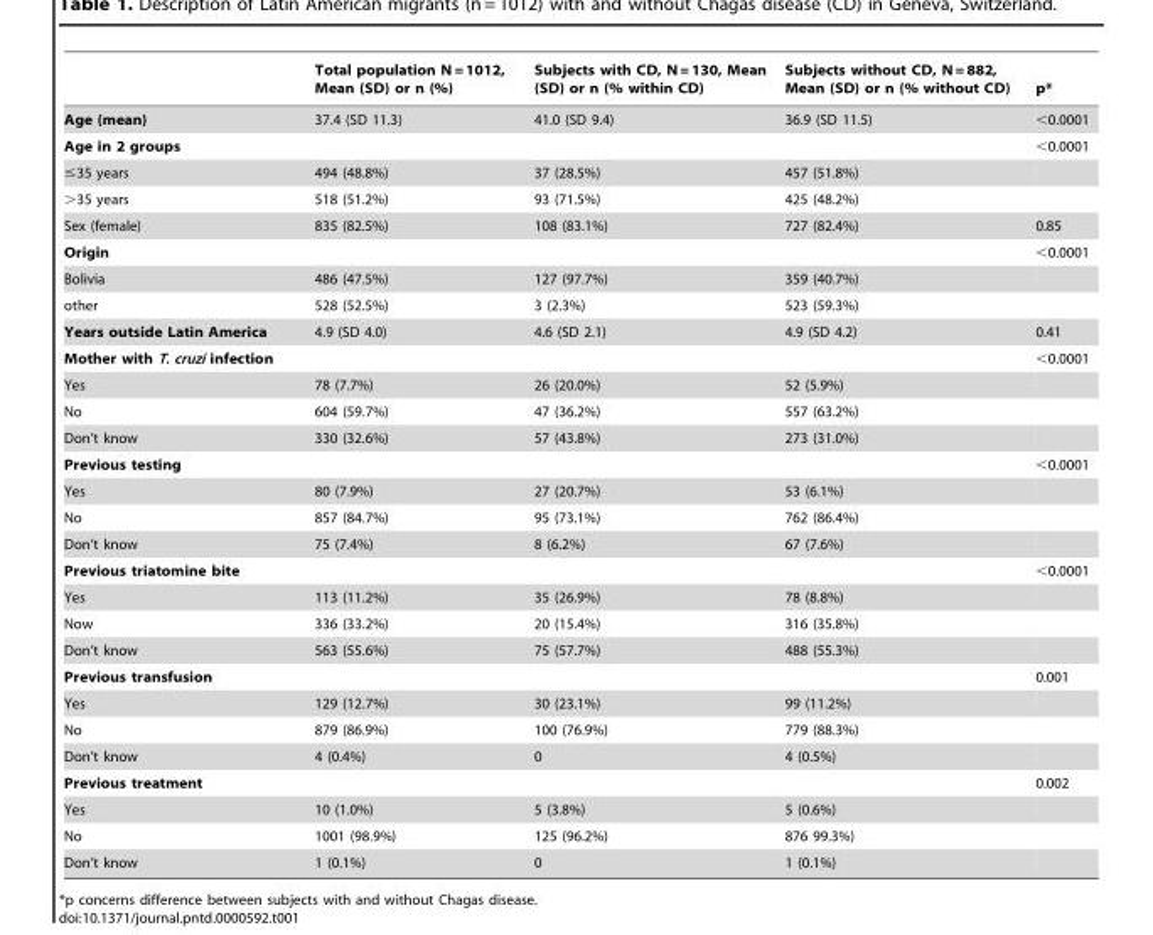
<table><thead><tr><td></td><td>Total population N = 1012, Mean (SD) or n (%)</td><td>Subjects with CD, N = 130, Mean (SD) or n (% within CD)</td><td>Subjects without CD, N = 882, Mean (SD) or n (% without CD)</td><td>p*</td></tr></thead><tbody><tr><td>Age (mean)</td><td>37.4 (SD 11.3)</td><td>41.0 (SD 9.4)</td><td>36.9 (SD 11.5)</td><td>&lt;0.0001</td></tr><tr><td>Age in 2 groups</td><td></td><td></td><td></td><td>&lt;0.0001</td></tr><tr><td>≤35 years</td><td>494 (48.8%)</td><td>37 (28.5%)</td><td>457 (51.8%)</td><td></td></tr><tr><td>&gt;35 years</td><td>518 (51.2%)</td><td>93 (71.5%)</td><td>425 (48.2%)</td><td></td></tr><tr><td>Sex (female)</td><td>835 (82.5%)</td><td>108 (83.1%)</td><td>727 (82.4%)</td><td>0.85</td></tr><tr><td>Origin</td><td></td><td></td><td></td><td>&lt;0.0001</td></tr><tr><td>Bolivia</td><td>486 (47.5%)</td><td>127 (97.7%)</td><td>359 (40.7%)</td><td></td></tr><tr><td>other</td><td>528 (52.5%)</td><td>3 (2.3%)</td><td>523 (59.3%)</td><td></td></tr><tr><td>Years outside Latin America</td><td>4.9 (SD 4.0)</td><td>4.6 (SD 2.1)</td><td>4.9 (SD 4.2)</td><td>0.41</td></tr><tr><td>Mother with T. cruzi infection</td><td></td><td></td><td></td><td>&lt;0.0001</td></tr><tr><td>Yes</td><td>78 (7.7%)</td><td>26 (20.0%)</td><td>52 (5.9%)</td><td></td></tr><tr><td>No</td><td>604 (59.7%)</td><td>47 (36.2%)</td><td>557 (63.2%)</td><td></td></tr><tr><td>Don’t know</td><td>330 (32.6%)</td><td>57 (43.8%)</td><td>273 (31.0%)</td><td></td></tr><tr><td>Previous testing</td><td></td><td></td><td></td><td>&lt;0.0001</td></tr><tr><td>Yes</td><td>80 (7.9%)</td><td>27 (20.7%)</td><td>53 (6.1%)</td><td></td></tr><tr><td>No</td><td>857 (84.7%)</td><td>95 (73.1%)</td><td>762 (86.4%)</td><td></td></tr><tr><td>Don’t know</td><td>75 (7.4%)</td><td>8 (6.2%)</td><td>67 (7.6%)</td><td></td></tr><tr><td>Previous triatomine bite</td><td></td><td></td><td></td><td>&lt;0.0001</td></tr><tr><td>Yes</td><td>113 (11.2%)</td><td>35 (26.9%)</td><td>78 (8.8%)</td><td></td></tr><tr><td>Now</td><td>336 (33.2%)</td><td>20 (15.4%)</td><td>316 (35.8%)</td><td></td></tr><tr><td>Don’t know</td><td>563 (55.6%)</td><td>75 (57.7%)</td><td>488 (55.3%)</td><td></td></tr><tr><td>Previous transfusion</td><td></td><td></td><td></td><td>0.001</td></tr><tr><td>Yes</td><td>129 (12.7%)</td><td>30 (23.1%)</td><td>99 (11.2%)</td><td></td></tr><tr><td>No</td><td>879 (86.9%)</td><td>100 (76.9%)</td><td>779 (88.3%)</td><td></td></tr><tr><td>Don’t know</td><td>4 (0.4%)</td><td>0</td><td>4 (0.5%)</td><td></td></tr><tr><td>Previous treatment</td><td></td><td></td><td></td><td>0.002</td></tr><tr><td>Yes</td><td>10 (1.0%)</td><td>5 (3.8%)</td><td>5 (0.6%)</td><td></td></tr><tr><td>No</td><td>1001 (98.9%)</td><td>125 (96.2%)</td><td>876 99.3%)</td><td></td></tr><tr><td>Don’t know</td><td>1 (0.1%)</td><td>0</td><td>1 (0.1%)</td><td></td></tr></tbody></table>